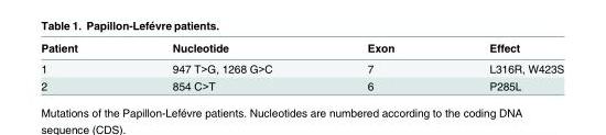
<table><thead><tr><td>Patient</td><td>Nucleotide</td><td>Exon</td><td>Effect</td></tr></thead><tbody><tr><td>1</td><td>947 T&gt;G, 1268 G&gt;C</td><td>7</td><td>L316R, W423S</td></tr><tr><td>2</td><td>854 C&gt;T</td><td>6</td><td>P285L</td></tr></tbody></table>